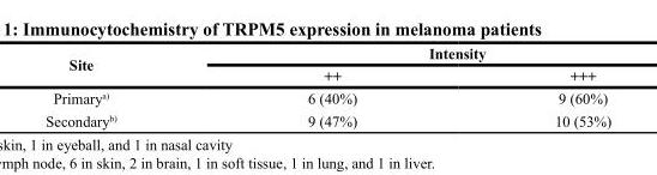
<table><thead><tr><td rowspan="2">Site</td><td colspan="2">Intensity</td></tr><tr><td>++</td><td>+++</td></tr></thead><tbody><tr><td>Primary<sup>a)</sup></td><td>6 (40%)</td><td>9 (60%)</td></tr><tr><td>Secondary<sup>b)</sup></td><td>9 (47%)</td><td>10 (53%)</td></tr></tbody></table>